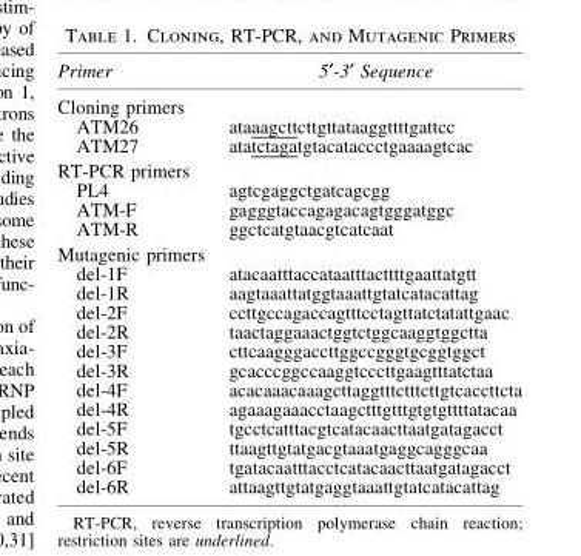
<table><thead><tr><td>Primer</td><td>5¢-3¢ Sequence</td></tr></thead><tbody><tr><td colspan="2">Cloning primers</td></tr><tr><td>ATM26</td><td>ataaagcttcttgttataaggttttgattcc</td></tr><tr><td>ATM27</td><td>atatctagatgtacataccctgaaaagtcac</td></tr><tr><td colspan="2">RT-PCR primers</td></tr><tr><td>PL4</td><td>agtcgaggctgatcagcgg</td></tr><tr><td>ATM-F</td><td>gagggtaccagagacagtgggatggc</td></tr><tr><td>ATM-R</td><td>ggctcatgtaacgtcatcaat</td></tr><tr><td colspan="2">Mutagenic primers</td></tr><tr><td>del-1F</td><td>atacaatttaccataatttacttttgaattatgtt</td></tr><tr><td>del-1R</td><td>aagtaaattatggtaaattgtatcatacattag</td></tr><tr><td>del-2F</td><td>ccttgccagaccagtttcctagttatctatattgaac</td></tr><tr><td>del-2R</td><td>taactaggaaactggtctggcaaggtggctta</td></tr><tr><td>del-3F</td><td>cttcaagggaccttggccgggtgcggtggct</td></tr><tr><td>del-3R</td><td>gcacccggccaaggtcccttgaagtttatctaa</td></tr><tr><td>del-4F</td><td>acacaaacaaagcttaggtttctttcttgtcaccttcta</td></tr><tr><td>del-4R</td><td>agaaagaaacctaagctttgtttgtgtgttttatacaa</td></tr><tr><td>del-5F</td><td>tgcctcatttacgtcatacaacttaatgatagacct</td></tr><tr><td>del-5R</td><td>ttaagttgtatgacgtaaatgaggcagggcaa</td></tr><tr><td>del-6F</td><td>tgatacaatttacctcatacaacttaatgatagacct</td></tr><tr><td>del-6R</td><td>attaagttgtatgaggtaaattgtatcatacattag</td></tr></tbody></table>